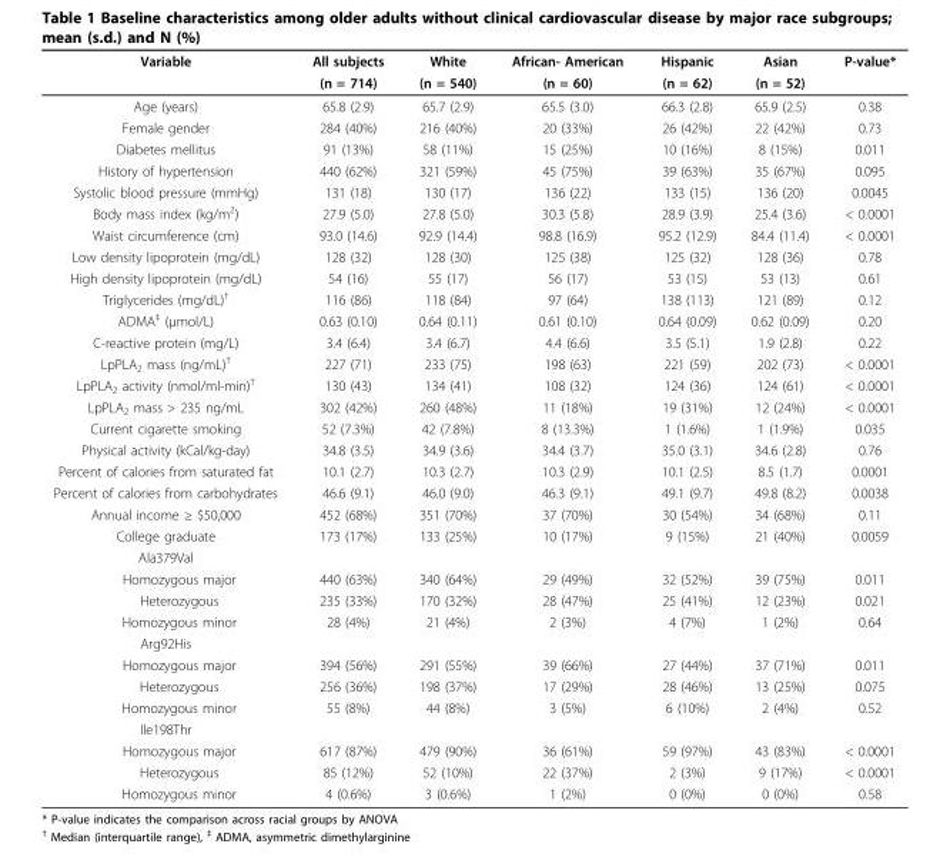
<table><thead><tr><td rowspan="2">Variable</td><td rowspan="2">All subjects (n = 714)</td><td rowspan="2">White (n = 540)</td><td rowspan="2">African- American (n = 60)</td><td rowspan="2">Hispanic (n = 62)</td><td rowspan="2">Asian (n = 52)</td><td rowspan="2">P-value*</td></tr><tr></tr></thead><tbody><tr><td>Age (years)</td><td>65.8 (2.9)</td><td>65.7 (2.9)</td><td>65.5 (3.0)</td><td>66.3 (2.8)</td><td>65.9 (2.5)</td><td>0.38</td></tr><tr><td>Female gender</td><td>284 (40%)</td><td>216 (40%)</td><td>20 (33%)</td><td>26 (42%)</td><td>22 (42%)</td><td>0.73</td></tr><tr><td>Diabetes mellitus</td><td>91 (13%)</td><td>58 (11%)</td><td>15 (25%)</td><td>10 (16%)</td><td>8 (15%)</td><td>0.011</td></tr><tr><td>History of hypertension</td><td>440 (62%)</td><td>321 (59%)</td><td>45 (75%)</td><td>39 (63%)</td><td>35 (67%)</td><td>0.095</td></tr><tr><td>Systolic blood pressure (mmHg)</td><td>131 (18)</td><td>130 (17)</td><td>136 (22)</td><td>133 (15)</td><td>136 (20)</td><td>0.0045</td></tr><tr><td>Body mass index (kg/m<sup>2</sup>)</td><td>27.9 (5.0)</td><td>27.8 (5.0)</td><td>30.3 (5.8)</td><td>28.9 (3.9)</td><td>25.4 (3.6)</td><td>&lt; 0.0001</td></tr><tr><td>Waist circumference (cm)</td><td>93.0 (14.6)</td><td>92.9 (14.4)</td><td>98.8 (16.9)</td><td>95.2 (12.9)</td><td>84.4 (11.4)</td><td>&lt; 0.0001</td></tr><tr><td>Low density lipoprotein (mg/dL)</td><td>128 (32)</td><td>128 (30)</td><td>125 (38)</td><td>125 (32)</td><td>128 (36)</td><td>0.78</td></tr><tr><td>High density lipoprotein (mg/dL)</td><td>54 (16)</td><td>55 (17)</td><td>56 (17)</td><td>53 (15)</td><td>53 (13)</td><td>0.61</td></tr><tr><td>Triglycerides (mg/dL)<sup>†</sup></td><td>116 (86)</td><td>118 (84)</td><td>97 (64)</td><td>138 (113)</td><td>121 (89)</td><td>0.12</td></tr><tr><td>ADMA<sup>‡</sup> (μmol/L)</td><td>0.63 (0.10)</td><td>0.64 (0.11)</td><td>0.61 (0.10)</td><td>0.64 (0.09)</td><td>0.62 (0.09)</td><td>0.20</td></tr><tr><td>C-reactive protein (mg/L)</td><td>3.4 (6.4)</td><td>3.4 (6.7)</td><td>4.4 (6.6)</td><td>3.5 (5.1)</td><td>1.9 (2.8)</td><td>0.22</td></tr><tr><td>LpPLA<sub>2</sub> mass (ng/mL)<sup>†</sup></td><td>227 (71)</td><td>233 (75)</td><td>198 (63)</td><td>221 (59)</td><td>202 (73)</td><td>&lt; 0.0001</td></tr><tr><td>LpPLA<sub>2</sub> activity (nmol/ml-min)<sup>†</sup></td><td>130 (43)</td><td>134 (41)</td><td>108 (32)</td><td>124 (36)</td><td>124 (61)</td><td>&lt; 0.0001</td></tr><tr><td>LpPLA<sub>2</sub> mass &gt; 235 ng/mL</td><td>302 (42%)</td><td>260 (48%)</td><td>11 (18%)</td><td>19 (31%)</td><td>12 (24%)</td><td>&lt; 0.0001</td></tr><tr><td>Current cigarette smoking</td><td>52 (7.3%)</td><td>42 (7.8%)</td><td>8 (13.3%)</td><td>1 (1.6%)</td><td>1 (1.9%)</td><td>0.035</td></tr><tr><td>Physical activity (kCal/kg-day)</td><td>34.8 (3.5)</td><td>34.9 (3.6)</td><td>34.4 (3.7)</td><td>35.0 (3.1)</td><td>34.6 (2.8)</td><td>0.76</td></tr><tr><td>Percent of calories from saturated fat</td><td>10.1 (2.7)</td><td>10.3 (2.7)</td><td>10.3 (2.9)</td><td>10.1 (2.5)</td><td>8.5 (1.7)</td><td>0.0001</td></tr><tr><td>Percent of calories from carbohydrates</td><td>46.6 (9.1)</td><td>46.0 (9.0)</td><td>46.3 (9.1)</td><td>49.1 (9.7)</td><td>49.8 (8.2)</td><td>0.0038</td></tr><tr><td>Annual income ≥ $50,000</td><td>452 (68%)</td><td>351 (70%)</td><td>37 (70%)</td><td>30 (54%)</td><td>34 (68%)</td><td>0.11</td></tr><tr><td>College graduate</td><td>173 (17%)</td><td>133 (25%)</td><td>10 (17%)</td><td>9 (15%)</td><td>21 (40%)</td><td>0.0059</td></tr><tr><td colspan="7">Ala379Val</td></tr><tr><td>Homozygous major</td><td>440 (63%)</td><td>340 (64%)</td><td>29 (49%)</td><td>32 (52%)</td><td>39 (75%)</td><td>0.011</td></tr><tr><td>Heterozygous</td><td>235 (33%)</td><td>170 (32%)</td><td>28 (47%)</td><td>25 (41%)</td><td>12 (23%)</td><td>0.021</td></tr><tr><td>Homozygous minor</td><td>28 (4%)</td><td>21 (4%)</td><td>2 (3%)</td><td>4 (7%)</td><td>1 (2%)</td><td>0.64</td></tr><tr><td colspan="7">Arg92His</td></tr><tr><td>Homozygous major</td><td>394 (56%)</td><td>291 (55%)</td><td>39 (66%)</td><td>27 (44%)</td><td>37 (71%)</td><td>0.011</td></tr><tr><td>Heterozygous</td><td>256 (36%)</td><td>198 (37%)</td><td>17 (29%)</td><td>28 (46%)</td><td>13 (25%)</td><td>0.075</td></tr><tr><td>Homozygous minor</td><td>55 (8%)</td><td>44 (8%)</td><td>3 (5%)</td><td>6 (10%)</td><td>2 (4%)</td><td>0.52</td></tr><tr><td colspan="7">Ile198Thr</td></tr><tr><td>Homozygous major</td><td>617 (87%)</td><td>479 (90%)</td><td>36 (61%)</td><td>59 (97%)</td><td>43 (83%)</td><td>&lt; 0.0001</td></tr><tr><td>Heterozygous</td><td>85 (12%)</td><td>52 (10%)</td><td>22 (37%)</td><td>2 (3%)</td><td>9 (17%)</td><td>&lt; 0.0001</td></tr><tr><td>Homozygous minor</td><td>4 (0.6%)</td><td>3 (0.6%)</td><td>1 (2%)</td><td>0 (0%)</td><td>0 (0%)</td><td>0.58</td></tr></tbody></table>